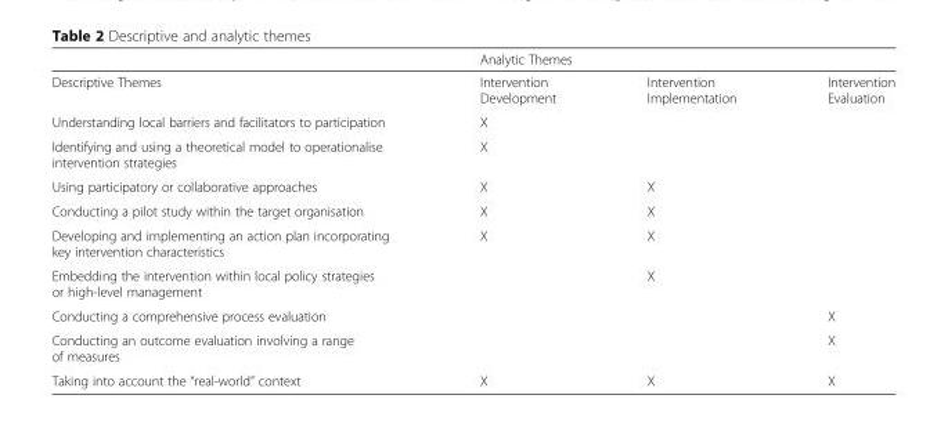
<table><thead><tr><td rowspan="2">Descriptive Themes</td><td colspan="3">Analytic Themes</td></tr><tr><td>Intervention Development</td><td>Intervention Implementation</td><td>Intervention Evaluation</td></tr></thead><tbody><tr><td>Understanding local barriers and facilitators to participation</td><td>X</td><td></td><td></td></tr><tr><td>Identifying and using a theoretical model to operationalise intervention strategies</td><td>X</td><td></td><td></td></tr><tr><td>Using participatory or collaborative approaches</td><td>X</td><td>X</td><td></td></tr><tr><td>Conducting a pilot study within the target organisation</td><td>X</td><td>X</td><td></td></tr><tr><td>Developing and implementing an action plan incorporating key intervention characteristics</td><td>X</td><td>X</td><td></td></tr><tr><td>Embedding the intervention within local policy strategies or high-level management</td><td></td><td>X</td><td></td></tr><tr><td>Conducting a comprehensive process evaluation</td><td></td><td></td><td>X</td></tr><tr><td>Conducting an outcome evaluation involving a range of measures</td><td></td><td></td><td>X</td></tr><tr><td>Taking into account the “real-world” context</td><td>X</td><td>X</td><td>X</td></tr></tbody></table>